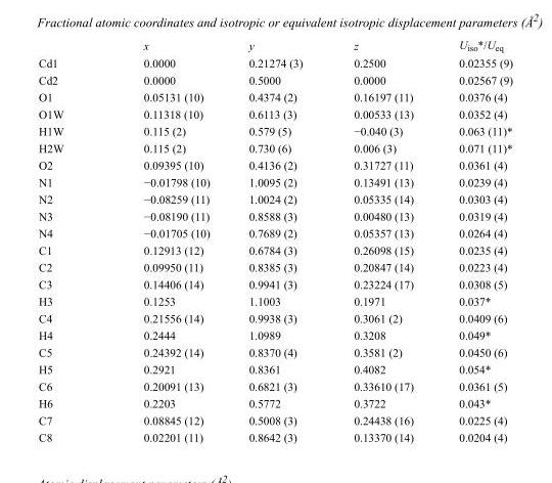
<table><thead><tr><td></td><td>x</td><td>y</td><td>z</td><td>U<sub>iso</sub>*/U<sub>eq</sub></td></tr></thead><tbody><tr><td>Cd1</td><td>0.0000</td><td>0.21274 (3)</td><td>0.2500</td><td>0.02355 (9)</td></tr><tr><td>Cd2</td><td>0.0000</td><td>0.5000</td><td>0.0000</td><td>0.02567 (9)</td></tr><tr><td>O1</td><td>0.05131 (10)</td><td>0.4374 (2)</td><td>0.16197 (11)</td><td>0.0376 (4)</td></tr><tr><td>O1W</td><td>0.11318 (10)</td><td>0.6113 (3)</td><td>0.00533 (13)</td><td>0.0352 (4)</td></tr><tr><td>H1W</td><td>0.115 (2)</td><td>0.579 (5)</td><td>−0.040 (3)</td><td>0.063 (11)*</td></tr><tr><td>H2W</td><td>0.115 (2)</td><td>0.730 (6)</td><td>0.006 (3)</td><td>0.071 (11)*</td></tr><tr><td>O2</td><td>0.09395 (10)</td><td>0.4136 (2)</td><td>0.31727 (11)</td><td>0.0361 (4)</td></tr><tr><td>N1</td><td>−0.01798 (10)</td><td>1.0095 (2)</td><td>0.13491 (13)</td><td>0.0239 (4)</td></tr><tr><td>N2</td><td>−0.08259 (11)</td><td>1.0024 (2)</td><td>0.05335 (14)</td><td>0.0303 (4)</td></tr><tr><td>N3</td><td>−0.08190 (11)</td><td>0.8588 (3)</td><td>0.00480 (13)</td><td>0.0319 (4)</td></tr><tr><td>N4</td><td>−0.01705 (10)</td><td>0.7689 (2)</td><td>0.05357 (13)</td><td>0.0264 (4)</td></tr><tr><td>C1</td><td>0.12913 (12)</td><td>0.6784 (3)</td><td>0.26098 (15)</td><td>0.0235 (4)</td></tr><tr><td>C2</td><td>0.09950 (11)</td><td>0.8385 (3)</td><td>0.20847 (14)</td><td>0.0223 (4)</td></tr><tr><td>C3</td><td>0.14406 (14)</td><td>0.9941 (3)</td><td>0.23224 (17)</td><td>0.0308 (5)</td></tr><tr><td>H3</td><td>0.1253</td><td>1.1003</td><td>0.1971</td><td>0.037*</td></tr><tr><td>C4</td><td>0.21556 (14)</td><td>0.9938 (3)</td><td>0.3061 (2)</td><td>0.0409 (6)</td></tr><tr><td>H4</td><td>0.2444</td><td>1.0989</td><td>0.3208</td><td>0.049*</td></tr><tr><td>C5</td><td>0.24392 (14)</td><td>0.8370 (4)</td><td>0.3581 (2)</td><td>0.0450 (6)</td></tr><tr><td>H5</td><td>0.2921</td><td>0.8361</td><td>0.4082</td><td>0.054*</td></tr><tr><td>C6</td><td>0.20091 (13)</td><td>0.6821 (3)</td><td>0.33610 (17)</td><td>0.0361 (5)</td></tr><tr><td>H6</td><td>0.2203</td><td>0.5772</td><td>0.3722</td><td>0.043*</td></tr><tr><td>C7</td><td>0.08845 (12)</td><td>0.5008 (3)</td><td>0.24438 (16)</td><td>0.0225 (4)</td></tr><tr><td>C8</td><td>0.02201 (11)</td><td>0.8642 (3)</td><td>0.13370 (14)</td><td>0.0204 (4)</td></tr></tbody></table>